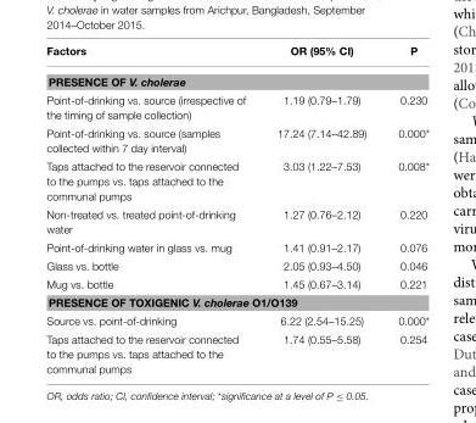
<table><thead><tr><td>Factors</td><td>OR (95% CI)</td><td>P</td></tr></thead><tbody><tr><td colspan="3">PRESENCE OF V. cholerae</td></tr><tr><td>Point-of-drinking vs. source (irrespective of the timing of sample collection)</td><td>1.19 (0.79–1.79)</td><td>0.230</td></tr><tr><td>Point-of-drinking vs. source (samples collected within 7 day interval)</td><td>17.24 (7.14–42.89)</td><td>0.000*</td></tr><tr><td>Taps attached to the reservoir connected to the pumps vs. taps attached to the communal pumps</td><td>3.03 (1.22–7.53)</td><td>0.008*</td></tr><tr><td>Non-treated vs. treated point-of-drinking water</td><td>1.27 (0.76–2.12)</td><td>0.220</td></tr><tr><td>Point-of-drinking water in glass vs. mug</td><td>1.41 (0.91–2.17)</td><td>0.076</td></tr><tr><td>Glass vs. bottle</td><td>2.05 (0.93–4.50)</td><td>0.046</td></tr><tr><td>Mug vs. bottle</td><td>1.45 (0.67–3.14)</td><td>0.221</td></tr><tr><td colspan="3">PRESENCE OF TOXIGENIC V. cholerae O1/O139</td></tr><tr><td>Source vs. point-of-drinking</td><td>6.22 (2.54–15.25)</td><td>0.000*</td></tr><tr><td>Taps attached to the reservoir connected to the pumps vs. taps attached to the communal pumps</td><td>1.74 (0.55–5.58)</td><td>0.254</td></tr></tbody></table>